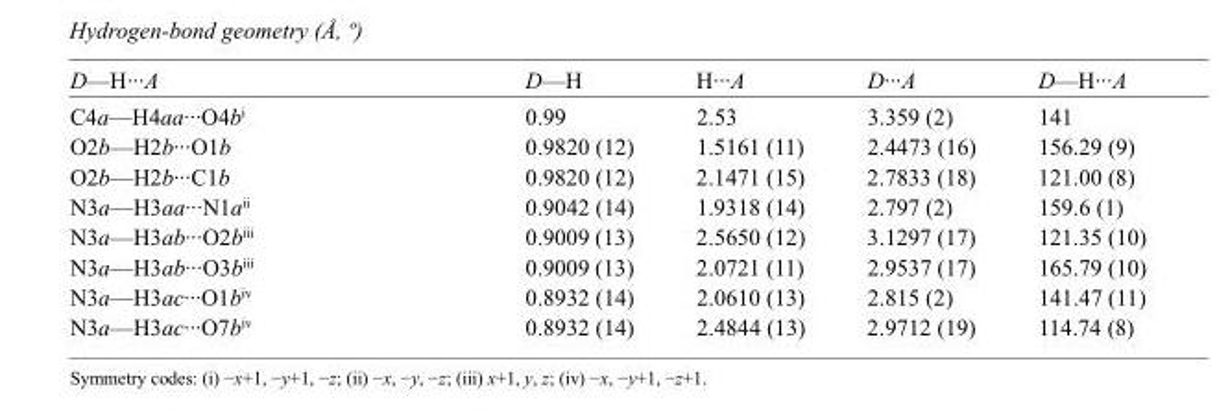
<table><tbody><tr><td>D—H···A</td><td>D—H</td><td>H···A</td><td>D···A</td><td>D—H···A</td></tr><tr><td>C4a—H4aa···O4b<sup>i</sup></td><td>0.99</td><td>2.53</td><td>3.359 (2)</td><td>141</td></tr><tr><td>O2b—H2b···O1b</td><td>0.9820 (12)</td><td>1.5161 (11)</td><td>2.4473 (16)</td><td>156.29 (9)</td></tr><tr><td>O2b—H2b···C1b</td><td>0.9820 (12)</td><td>2.1471 (15)</td><td>2.7833 (18)</td><td>121.00 (8)</td></tr><tr><td>N3a—H3aa···N1a<sup>ii</sup></td><td>0.9042 (14)</td><td>1.9318 (14)</td><td>2.797 (2)</td><td>159.6 (1)</td></tr><tr><td>N3a—H3ab···O2b<sup>iii</sup></td><td>0.9009 (13)</td><td>2.5650 (12)</td><td>3.1297 (17)</td><td>121.35 (10)</td></tr><tr><td>N3a—H3ab···O3b<sup>iii</sup></td><td>0.9009 (13)</td><td>2.0721 (11)</td><td>2.9537 (17)</td><td>165.79 (10)</td></tr><tr><td>N3a—H3ac···O1b<sup>iv</sup></td><td>0.8932 (14)</td><td>2.0610 (13)</td><td>2.815 (2)</td><td>141.47 (11)</td></tr><tr><td>N3a—H3ac···O7b<sup>iv</sup></td><td>0.8932 (14)</td><td>2.4844 (13)</td><td>2.9712 (19)</td><td>114.74 (8)</td></tr></tbody></table>